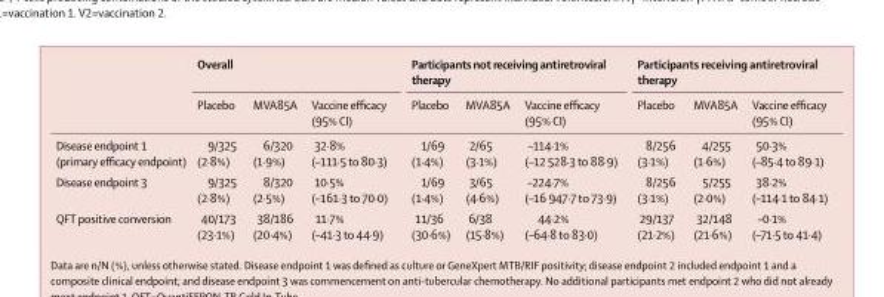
<table><thead><tr><td rowspan="2"></td><td colspan="3">Overall</td><td colspan="3">Participants not receiving antiretroviral therapy</td><td colspan="3">Participants receiving antiretroviral therapy</td></tr><tr><td>Placebo</td><td>MVA85A</td><td>Vaccine effi cacy (95% CI)</td><td>Placebo</td><td>MVA85A</td><td>Vaccine effi cacy (95% CI)</td><td>Placebo</td><td>MVA85A</td><td>Vaccine effi cacy (95% CI)</td></tr></thead><tbody><tr><td>Disease endpoint 1 (primary effi cacy endpoint)</td><td>9/325 (2·8%)</td><td>6/320 (1·9%)</td><td>32·8% (–111·5 to 80·3)</td><td>1/69 (1·4%)</td><td>2/65 (3·1%)</td><td>–114·1% (–12 528·3 to 88·9)</td><td>8/256 (3·1%)</td><td>4/255 (1·6%)</td><td>50·3% (–85·4 to 89·1)</td></tr><tr><td>Disease endpoint 3</td><td>9/325 (2·8%)</td><td>8/320 (2·5%)</td><td>10·5% (–161·3 to 70·0)</td><td>1/69 (1·4%)</td><td>3/65 (4·6%)</td><td>–224·7% (–16 947·7 to 73·9)</td><td>8/256 (3·1%)</td><td>5/255 (2·0%)</td><td>38·2% (–114·1 to 84·1)</td></tr><tr><td>QFT positive conversion</td><td>40/173 (23·1%)</td><td>38/186 (20·4%)</td><td>11·7% (–41·3 to 44·9)</td><td>11/36 (30·6%)</td><td>6/38 (15·8%)</td><td>44·2% (–64·8 to 83·0)</td><td>29/137 (21·2%)</td><td>32/148 (21·6%)</td><td>–0·1% (–71·5 to 41·4)</td></tr></tbody></table>